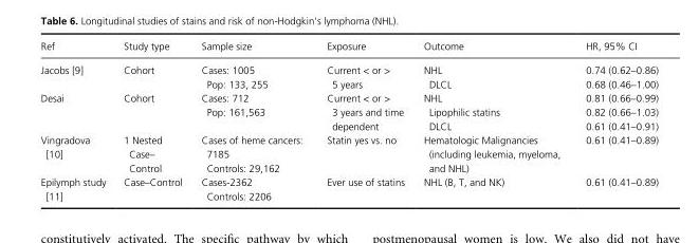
<table><thead><tr><td>Ref</td><td>Study type</td><td>Sample size</td><td>Exposure</td><td>Outcome</td><td>HR, 95% CI</td></tr></thead><tbody><tr><td>Jacobs [9]</td><td>Cohort</td><td>Cases: 1005 Pop: 133, 255</td><td>Current &lt; or &gt; 5 years</td><td>NHL DLCL</td><td>0.74 (0.62–0.86) 0.68 (0.46–1.00)</td></tr><tr><td>Desai</td><td>Cohort</td><td>Cases: 712 Pop: 161,563</td><td>Current &lt; or &gt; 3 years and time dependent</td><td>NHL Lipophilic statins DLCL</td><td>0.81 (0.66–0.99) 0.82 (0.66–1.03) 0.61 (0.41–0.91)</td></tr><tr><td>Vingradova [10]</td><td>1 Nested Case– Control</td><td>Cases of heme cancers: 7185 Controls: 29,162</td><td>Statin yes vs. no</td><td>Hematologic Malignancies (including leukemia, myeloma, and NHL)</td><td>0.61 (0.41–0.89)</td></tr><tr><td>Epilymph study [11]</td><td>Case–Control</td><td>Cases- 2362 Controls: 2206</td><td>Ever use of statins</td><td>NHL (B, T, and NK)</td><td>0.61 (0.41–0.89)</td></tr></tbody></table>